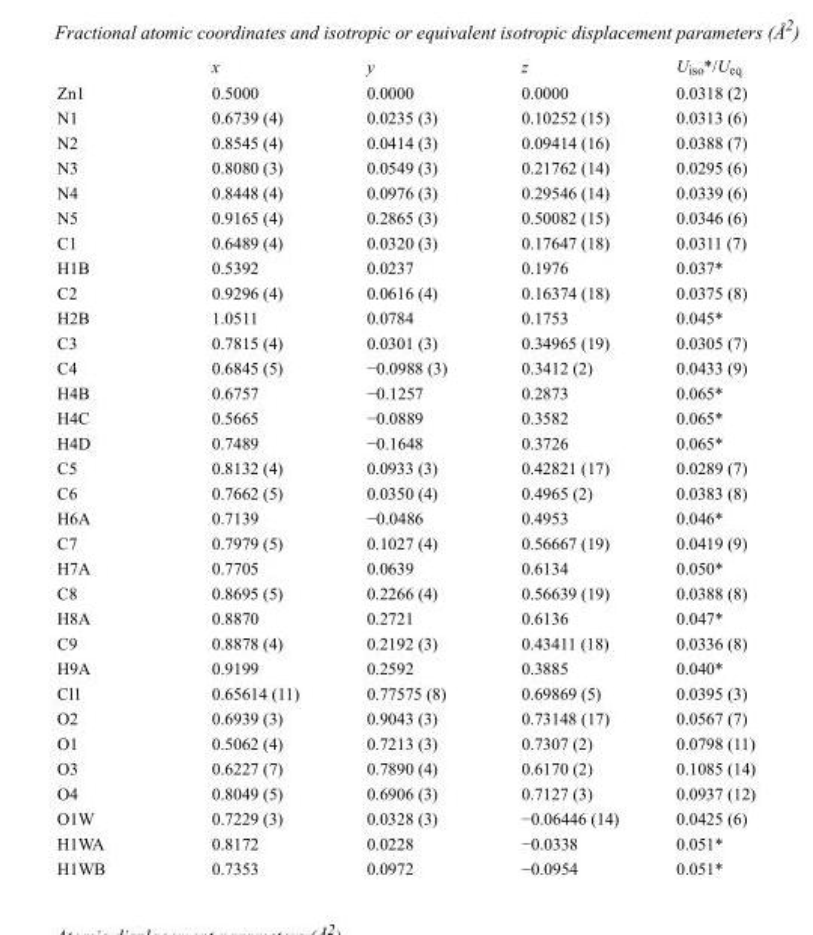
<table><thead><tr><td></td><td>x</td><td>y</td><td>z</td><td>U<sub>iso</sub>*/U<sub>eq</sub></td></tr></thead><tbody><tr><td>Zn1</td><td>0.5000</td><td>0.0000</td><td>0.0000</td><td>0.0318 (2)</td></tr><tr><td>N1</td><td>0.6739 (4)</td><td>0.0235 (3)</td><td>0.10252 (15)</td><td>0.0313 (6)</td></tr><tr><td>N2</td><td>0.8545 (4)</td><td>0.0414 (3)</td><td>0.09414 (16)</td><td>0.0388 (7)</td></tr><tr><td>N3</td><td>0.8080 (3)</td><td>0.0549 (3)</td><td>0.21762 (14)</td><td>0.0295 (6)</td></tr><tr><td>N4</td><td>0.8448 (4)</td><td>0.0976 (3)</td><td>0.29546 (14)</td><td>0.0339 (6)</td></tr><tr><td>N5</td><td>0.9165 (4)</td><td>0.2865 (3)</td><td>0.50082 (15)</td><td>0.0346 (6)</td></tr><tr><td>C1</td><td>0.6489 (4)</td><td>0.0320 (3)</td><td>0.17647 (18)</td><td>0.0311 (7)</td></tr><tr><td>H1B</td><td>0.5392</td><td>0.0237</td><td>0.1976</td><td>0.037*</td></tr><tr><td>C2</td><td>0.9296 (4)</td><td>0.0616 (4)</td><td>0.16374 (18)</td><td>0.0375 (8)</td></tr><tr><td>H2B</td><td>1.0511</td><td>0.0784</td><td>0.1753</td><td>0.045*</td></tr><tr><td>C3</td><td>0.7815 (4)</td><td>0.0301 (3)</td><td>0.34965 (19)</td><td>0.0305 (7)</td></tr><tr><td>C4</td><td>0.6845 (5)</td><td>−0.0988 (3)</td><td>0.3412 (2)</td><td>0.0433 (9)</td></tr><tr><td>H4B</td><td>0.6757</td><td>−0.1257</td><td>0.2873</td><td>0.065*</td></tr><tr><td>H4C</td><td>0.5665</td><td>−0.0889</td><td>0.3582</td><td>0.065*</td></tr><tr><td>H4D</td><td>0.7489</td><td>−0.1648</td><td>0.3726</td><td>0.065*</td></tr><tr><td>C5</td><td>0.8132 (4)</td><td>0.0933 (3)</td><td>0.42821 (17)</td><td>0.0289 (7)</td></tr><tr><td>C6</td><td>0.7662 (5)</td><td>0.0350 (4)</td><td>0.4965 (2)</td><td>0.0383 (8)</td></tr><tr><td>H6A</td><td>0.7139</td><td>−0.0486</td><td>0.4953</td><td>0.046*</td></tr><tr><td>C7</td><td>0.7979 (5)</td><td>0.1027 (4)</td><td>0.56667 (19)</td><td>0.0419 (9)</td></tr><tr><td>H7A</td><td>0.7705</td><td>0.0639</td><td>0.6134</td><td>0.050*</td></tr><tr><td>C8</td><td>0.8695 (5)</td><td>0.2266 (4)</td><td>0.56639 (19)</td><td>0.0388 (8)</td></tr><tr><td>H8A</td><td>0.8870</td><td>0.2721</td><td>0.6136</td><td>0.047*</td></tr><tr><td>C9</td><td>0.8878 (4)</td><td>0.2192 (3)</td><td>0.43411 (18)</td><td>0.0336 (8)</td></tr><tr><td>H9A</td><td>0.9199</td><td>0.2592</td><td>0.3885</td><td>0.040*</td></tr><tr><td>Cl1</td><td>0.65614 (11)</td><td>0.77575 (8)</td><td>0.69869 (5)</td><td>0.0395 (3)</td></tr><tr><td>O2</td><td>0.6939 (3)</td><td>0.9043 (3)</td><td>0.73148 (17)</td><td>0.0567 (7)</td></tr><tr><td>O1</td><td>0.5062 (4)</td><td>0.7213 (3)</td><td>0.7307 (2)</td><td>0.0798 (11)</td></tr><tr><td>O3</td><td>0.6227 (7)</td><td>0.7890 (4)</td><td>0.6170 (2)</td><td>0.1085 (14)</td></tr><tr><td>O4</td><td>0.8049 (5)</td><td>0.6906 (3)</td><td>0.7127 (3)</td><td>0.0937 (12)</td></tr><tr><td>O1W</td><td>0.7229 (3)</td><td>0.0328 (3)</td><td>−0.06446 (14)</td><td>0.0425 (6)</td></tr><tr><td>H1WA</td><td>0.8172</td><td>0.0228</td><td>−0.0338</td><td>0.051*</td></tr><tr><td>H1WB</td><td>0.7353</td><td>0.0972</td><td>−0.0954</td><td>0.051*</td></tr></tbody></table>